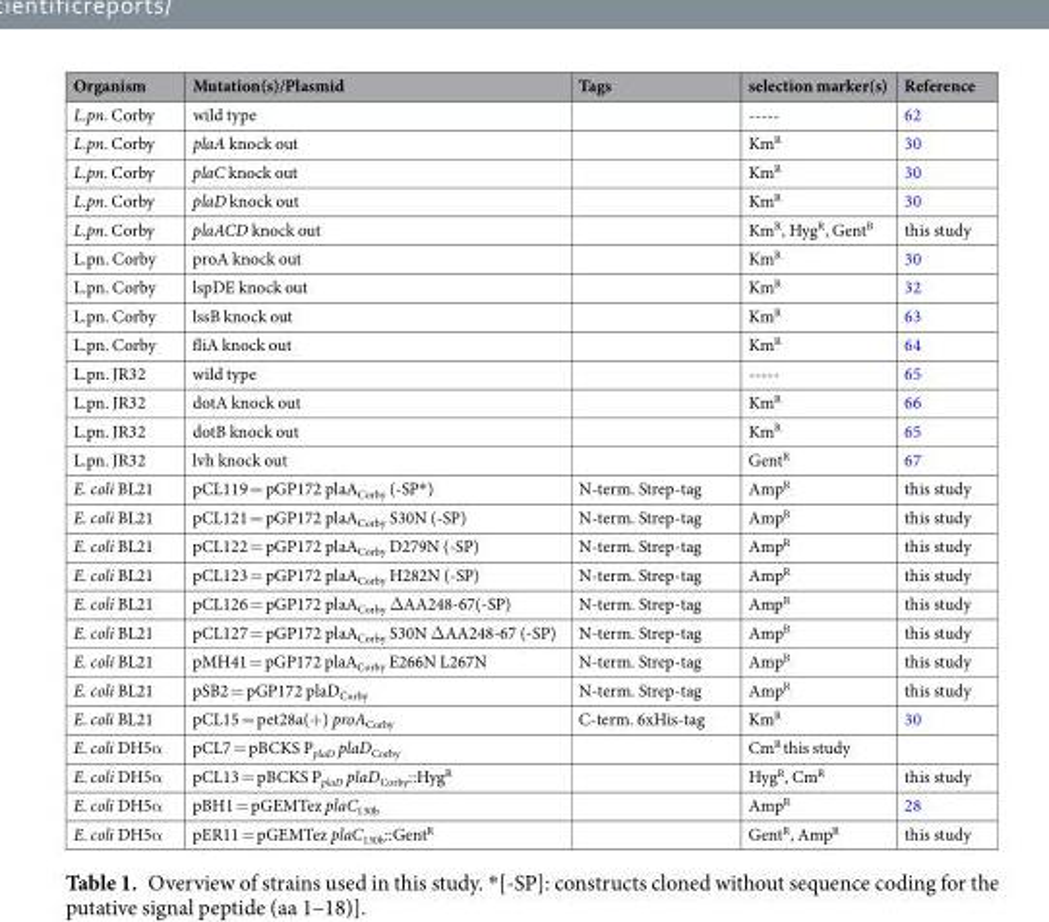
<table><thead><tr><td>Organism</td><td>Mutation(s)/Plasmid</td><td>Tags</td><td>selection marker(s)</td><td>Reference</td></tr></thead><tbody><tr><td>L.pn. Corby</td><td>wild type</td><td></td><td>-----</td><td>62</td></tr><tr><td>L.pn. Corby</td><td>plaA knock out</td><td></td><td>Km<sup>R</sup></td><td>30</td></tr><tr><td>L.pn. Corby</td><td>plaC knock out</td><td></td><td>Km<sup>R</sup></td><td>30</td></tr><tr><td>L.pn. Corby</td><td>plaD knock out</td><td></td><td>Km<sup>R</sup></td><td>30</td></tr><tr><td>L.pn. Corby</td><td>plaACD knock out</td><td></td><td>Km<sup>R</sup>, Hyg<sup>R</sup>, Gent<sup>R</sup></td><td>this study</td></tr><tr><td>L.pn. Corby</td><td>proA knock out</td><td></td><td>Km<sup>R</sup></td><td>30</td></tr><tr><td>L.pn. Corby</td><td>lspDE knock out</td><td></td><td>Km<sup>R</sup></td><td>32</td></tr><tr><td>L.pn. Corby</td><td>lssB knock out</td><td></td><td>Km<sup>R</sup></td><td>63</td></tr><tr><td>L.pn. Corby</td><td>fliA knock out</td><td></td><td>Km<sup>R</sup></td><td>64</td></tr><tr><td>L.pn. JR32</td><td>wild type</td><td></td><td>-----</td><td>65</td></tr><tr><td>L.pn. JR32</td><td>dotA knock out</td><td></td><td>Km<sup>R</sup></td><td>66</td></tr><tr><td>L.pn. JR32</td><td>dotB knock out</td><td></td><td>Km<sup>R</sup></td><td>65</td></tr><tr><td>L.pn. JR32</td><td>lvh knock out</td><td></td><td>Gent<sup>R</sup></td><td>67</td></tr><tr><td>E. coli BL21</td><td>pCL119 = pGP172 plaA<sub>Corby</sub> (-SP*)</td><td>N-term. Strep-tag</td><td>Amp<sup>R</sup></td><td>this study</td></tr><tr><td>E. coli BL21</td><td>pCL121 = pGP172 plaA<sub>Corby</sub> S30N (-SP)</td><td>N-term. Strep-tag</td><td>Amp<sup>R</sup></td><td>this study</td></tr><tr><td>E. coli BL21</td><td>pCL122 = pGP172 plaA<sub>Corby</sub> D279N (-SP)</td><td>N-term. Strep-tag</td><td>Amp<sup>R</sup></td><td>this study</td></tr><tr><td>E. coli BL21</td><td>pCL123 = pGP172 plaA<sub>Corby</sub> H282N (-SP)</td><td>N-term. Strep-tag</td><td>Amp<sup>R</sup></td><td>this study</td></tr><tr><td>E. coli BL21</td><td>pCL126 = pGP172 plaA<sub>Corby</sub> ΔAA248-67(-SP)</td><td>N-term. Strep-tag</td><td>Amp<sup>R</sup></td><td>this study</td></tr><tr><td>E. coli BL21</td><td>pCL127 = pGP172 plaA<sub>Corby</sub> S30N ΔAA248-67 (-SP)</td><td>N-term. Strep-tag</td><td>Amp<sup>R</sup></td><td>this study</td></tr><tr><td>E. coli BL21</td><td>pMH41 = pGP172 plaA<sub>Corby</sub> E266N L267N</td><td>N-term. Strep-tag</td><td>Amp<sup>R</sup></td><td>this study</td></tr><tr><td>E. coli BL21</td><td>pSB2 = pGP172 plaD<sub>Corby</sub></td><td>N-term. Strep-tag</td><td>Amp<sup>R</sup></td><td>this study</td></tr><tr><td>E. coli BL21</td><td>pCL15 = pet28a(+) proA<sub>Corby</sub></td><td>C-term. 6xHis-tag</td><td>Km<sup>R</sup></td><td>30</td></tr><tr><td>E. coli DH5α</td><td>pCL7 = pBCKS P<sub>plaD</sub> plaD<sub>Corby</sub></td><td></td><td>Cm<sup>R</sup> this study</td><td></td></tr><tr><td>E. coli DH5α</td><td>pCL13 = pBCKS P<sub>plaD</sub> plaD<sub>Corby</sub>::Hyg<sup>R</sup></td><td></td><td>Hyg<sup>R</sup>, Cm<sup>R</sup></td><td>this study</td></tr><tr><td>E. coli DH5α</td><td>pBH1 = pGEMTez plaC<sub>130b</sub></td><td></td><td>Amp<sup>R</sup></td><td>28</td></tr><tr><td>E. coli DH5α</td><td>pER11 = pGEMTez plaC<sub>130b</sub>::Gent<sup>R</sup></td><td></td><td>Gent<sup>R</sup>, Amp<sup>R</sup></td><td>this study</td></tr></tbody></table>